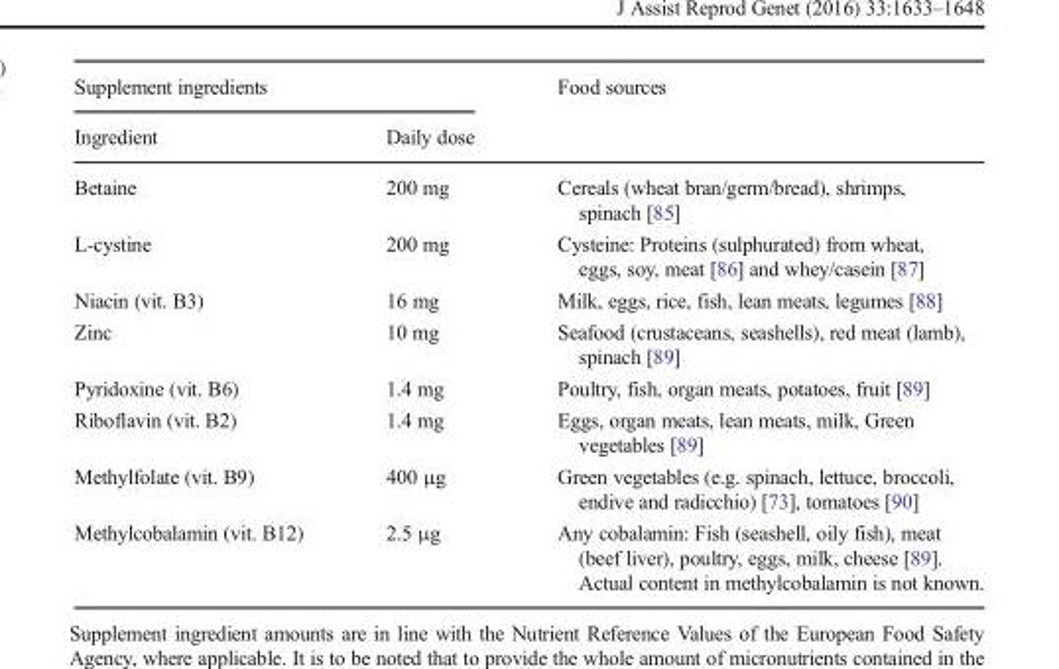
<table><thead><tr><td colspan="2">Supplement ingredients</td><td rowspan="2">Food sources</td></tr><tr><td>Ingredient</td><td>Daily dose</td></tr></thead><tbody><tr><td>Betaine</td><td>200 mg</td><td>Cereals (wheat bran/germ/bread), shrimps, spinach [85]</td></tr><tr><td>L-cystine</td><td>200 mg</td><td>Cysteine: Proteins (sulphurated) from wheat, eggs, soy, meat [86] and whey/casein [87]</td></tr><tr><td>Niacin (vit. B3)</td><td>16 mg</td><td>Milk, eggs, rice, fish, lean meats, legumes [88]</td></tr><tr><td>Zinc</td><td>10 mg</td><td>Seafood (crustaceans, seashells), red meat (lamb), spinach [89]</td></tr><tr><td>Pyridoxine (vit. B6)</td><td>1.4 mg</td><td>Poultry, fish, organ meats, potatoes, fruit [89]</td></tr><tr><td>Riboflavin (vit. B2)</td><td>1.4 mg</td><td>Eggs, organ meats, lean meats, milk, Green vegetables [89]</td></tr><tr><td>Methylfolate (vit. B9)</td><td>400 μg</td><td>Green vegetables (e.g. spinach, lettuce, broccoli, endive and radicchio) [73], tomatoes [90]</td></tr><tr><td>Methylcobalamin (vit. B12)</td><td>2.5 μg</td><td>Any cobalamin: Fish (seashell, oily fish), meat (beef liver), poultry, eggs, milk, cheese [89]. Actual content in methylcobalamin is not known.</td></tr></tbody></table>